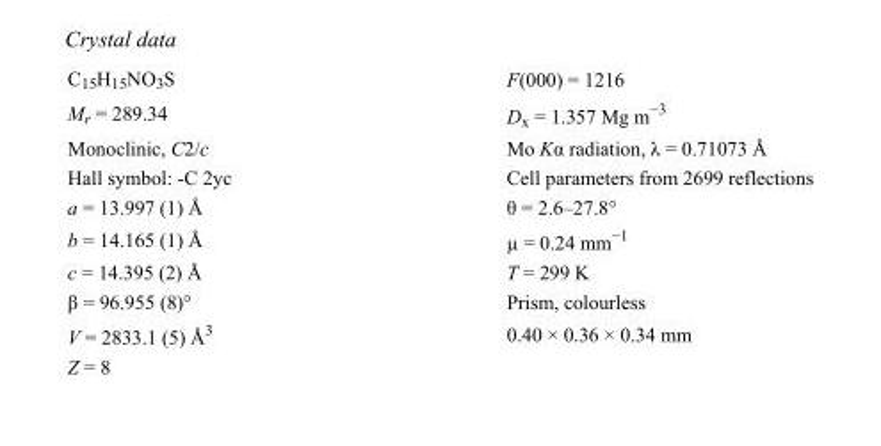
<table><tbody><tr><td>C<sub>15</sub>H<sub>15</sub>NO<sub>3</sub>S</td><td>F(000) = 1216</td></tr><tr><td>M<sub>r</sub> = 289.34</td><td>D<sub>x</sub> = 1.357 Mg m<sup>−3</sup></td></tr><tr><td>Monoclinic, C2/c</td><td>Mo Kα radiation, λ = 0.71073 Å</td></tr><tr><td>Hall symbol: -C 2yc</td><td>Cell parameters from 2699 reflections</td></tr><tr><td>a = 13.997 (1) Å</td><td>θ = 2.6–27.8°</td></tr><tr><td>b = 14.165 (1) Å</td><td>µ = 0.24 mm<sup>−1</sup></td></tr><tr><td>c = 14.395 (2) Å</td><td>T = 299 K</td></tr><tr><td>β = 96.955 (8)°</td><td>Prism, colourless</td></tr><tr><td>V = 2833.1 (5) Å<sup>3</sup></td><td>0.40 × 0.36 × 0.34 mm</td></tr><tr><td>Z = 8</td><td></td></tr></tbody></table>